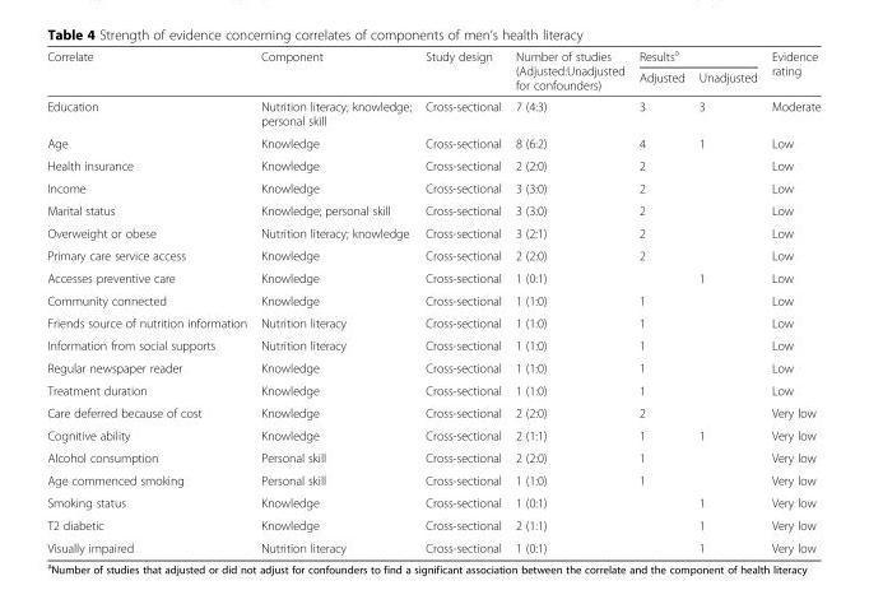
<table><thead><tr><td rowspan="2">Correlate</td><td rowspan="2">Component</td><td rowspan="2">Study design</td><td rowspan="2">Number of studies (Adjusted:Unadjusted for confounders)</td><td colspan="2">Results<sup>a</sup></td><td rowspan="2">Evidence rating</td></tr><tr><td>Adjusted</td><td>Unadjusted</td></tr></thead><tbody><tr><td>Education</td><td>Nutrition literacy; knowledge; personal skill</td><td>Cross-sectional</td><td>7 (4:3)</td><td>3</td><td>3</td><td>Moderate</td></tr><tr><td>Age</td><td>Knowledge</td><td>Cross-sectional</td><td>8 (6:2)</td><td>4</td><td>1</td><td>Low</td></tr><tr><td>Health insurance</td><td>Knowledge</td><td>Cross-sectional</td><td>2 (2:0)</td><td>2</td><td></td><td>Low</td></tr><tr><td>Income</td><td>Knowledge</td><td>Cross-sectional</td><td>3 (3:0)</td><td>2</td><td></td><td>Low</td></tr><tr><td>Marital status</td><td>Knowledge; personal skill</td><td>Cross-sectional</td><td>3 (3:0)</td><td>2</td><td></td><td>Low</td></tr><tr><td>Overweight or obese</td><td>Nutrition literacy; knowledge</td><td>Cross-sectional</td><td>3 (2:1)</td><td>2</td><td></td><td>Low</td></tr><tr><td>Primary care service access</td><td>Knowledge</td><td>Cross-sectional</td><td>2 (2:0)</td><td>2</td><td></td><td>Low</td></tr><tr><td>Accesses preventive care</td><td>Knowledge</td><td>Cross-sectional</td><td>1 (0:1)</td><td></td><td>1</td><td>Low</td></tr><tr><td>Community connected</td><td>Knowledge</td><td>Cross-sectional</td><td>1 (1:0)</td><td>1</td><td></td><td>Low</td></tr><tr><td>Friends source of nutrition information</td><td>Nutrition literacy</td><td>Cross-sectional</td><td>1 (1:0)</td><td>1</td><td></td><td>Low</td></tr><tr><td>Information from social supports</td><td>Nutrition literacy</td><td>Cross-sectional</td><td>1 (1:0)</td><td>1</td><td></td><td>Low</td></tr><tr><td>Regular newspaper reader</td><td>Knowledge</td><td>Cross-sectional</td><td>1 (1:0)</td><td>1</td><td></td><td>Low</td></tr><tr><td>Treatment duration</td><td>Knowledge</td><td>Cross-sectional</td><td>1 (1:0)</td><td>1</td><td></td><td>Low</td></tr><tr><td>Care deferred because of cost</td><td>Knowledge</td><td>Cross-sectional</td><td>2 (2:0)</td><td>2</td><td></td><td>Very low</td></tr><tr><td>Cognitive ability</td><td>Knowledge</td><td>Cross-sectional</td><td>2 (1:1)</td><td>1</td><td>1</td><td>Very low</td></tr><tr><td>Alcohol consumption</td><td>Personal skill</td><td>Cross-sectional</td><td>2 (2:0)</td><td>1</td><td></td><td>Very low</td></tr><tr><td>Age commenced smoking</td><td>Personal skill</td><td>Cross-sectional</td><td>1 (1:0)</td><td>1</td><td></td><td>Very low</td></tr><tr><td>Smoking status</td><td>Knowledge</td><td>Cross-sectional</td><td>1 (0:1)</td><td></td><td>1</td><td>Very low</td></tr><tr><td>T2 diabetic</td><td>Knowledge</td><td>Cross-sectional</td><td>2 (1:1)</td><td></td><td>1</td><td>Very low</td></tr><tr><td>Visually impaired</td><td>Nutrition literacy</td><td>Cross-sectional</td><td>1 (0:1)</td><td></td><td>1</td><td>Very low</td></tr></tbody></table>